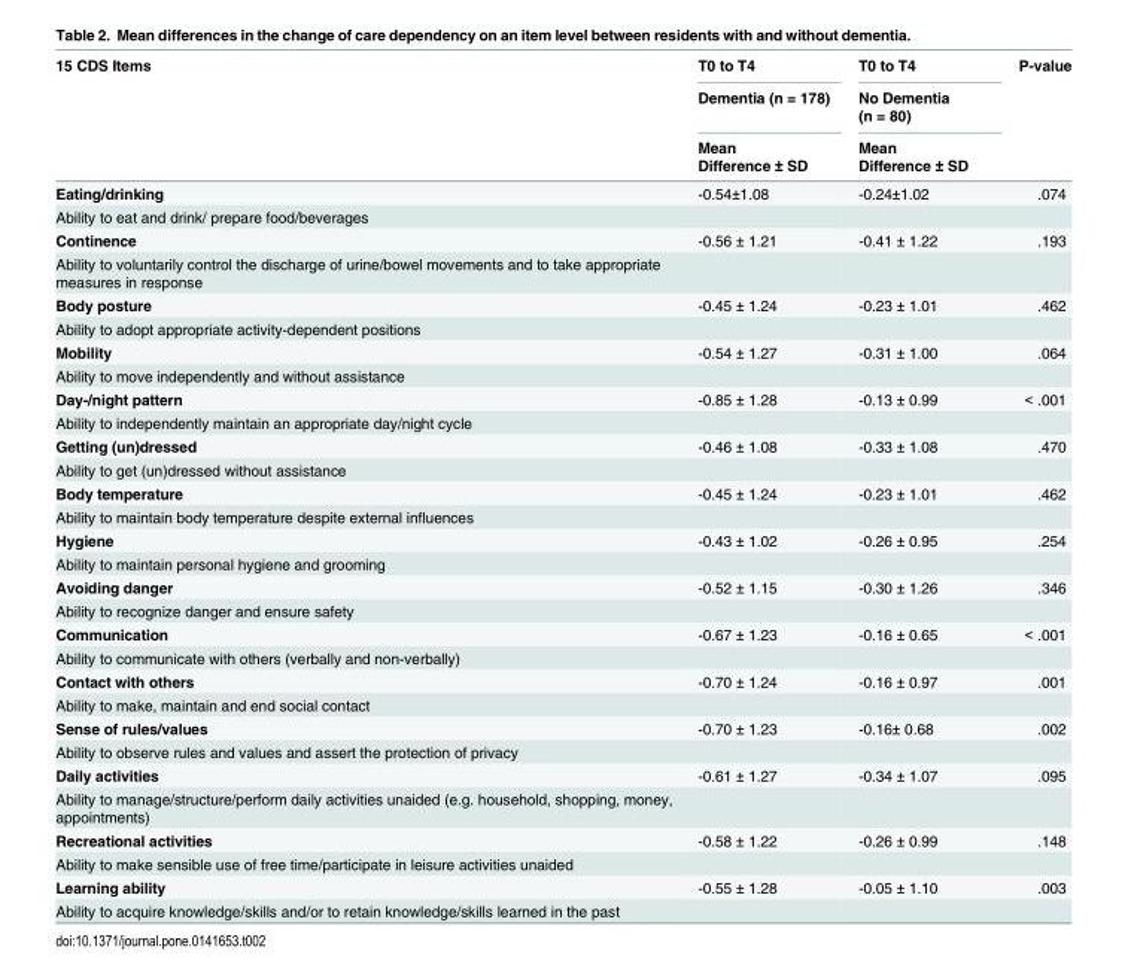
<table><thead><tr><td rowspan="3">15 CDS Items</td><td rowspan="3">T0 to T4 Dementia (n = 178) Mean Difference ± SD</td><td rowspan="3">T0 to T4 No Dementia (n = 80) Mean Difference ± SD</td><td rowspan="3">P-value</td></tr><tr></tr><tr></tr></thead><tbody><tr><td>Eating/drinking</td><td>-0.54±1.08</td><td>-0.24±1.02</td><td>.074</td></tr><tr><td colspan="4">Ability to eat and drink/ prepare food/beverages</td></tr><tr><td>Continence</td><td>-0.56 ± 1.21</td><td>-0.41 ± 1.22</td><td>.193</td></tr><tr><td colspan="4">Ability to voluntarily control the discharge of urine/bowel movements and to take appropriate measures in response</td></tr><tr><td>Body posture</td><td>-0.45 ± 1.24</td><td>-0.23 ± 1.01</td><td>.462</td></tr><tr><td colspan="4">Ability to adopt appropriate activity-dependent positions</td></tr><tr><td>Mobility</td><td>-0.54 ± 1.27</td><td>-0.31 ± 1.00</td><td>.064</td></tr><tr><td colspan="4">Ability to move independently and without assistance</td></tr><tr><td>Day-/night pattern</td><td>-0.85 ± 1.28</td><td>-0.13 ± 0.99</td><td>&lt; .001</td></tr><tr><td colspan="4">Ability to independently maintain an appropriate day/night cycle</td></tr><tr><td>Getting (un)dressed</td><td>-0.46 ± 1.08</td><td>-0.33 ± 1.08</td><td>.470</td></tr><tr><td colspan="4">Ability to get (un)dressed without assistance</td></tr><tr><td>Body temperature</td><td>-0.45 ± 1.24</td><td>-0.23 ± 1.01</td><td>.462</td></tr><tr><td colspan="4">Ability to maintain body temperature despite external influences</td></tr><tr><td>Hygiene</td><td>-0.43 ± 1.02</td><td>-0.26 ± 0.95</td><td>.254</td></tr><tr><td colspan="4">Ability to maintain personal hygiene and grooming</td></tr><tr><td>Avoiding danger</td><td>-0.52 ± 1.15</td><td>-0.30 ± 1.26</td><td>.346</td></tr><tr><td colspan="4">Ability to recognize danger and ensure safety</td></tr><tr><td>Communication</td><td>-0.67 ± 1.23</td><td>-0.16 ± 0.65</td><td>&lt; .001</td></tr><tr><td colspan="4">Ability to communicate with others (verbally and non-verbally)</td></tr><tr><td>Contact with others</td><td>-0.70 ± 1.24</td><td>-0.16 ± 0.97</td><td>.001</td></tr><tr><td colspan="4">Ability to make, maintain and end social contact</td></tr><tr><td>Sense of rules/values</td><td>-0.70 ± 1.23</td><td>-0.16± 0.68</td><td>.002</td></tr><tr><td colspan="4">Ability to observe rules and values and assert the protection of privacy</td></tr><tr><td>Daily activities</td><td>-0.61 ± 1.27</td><td>-0.34 ± 1.07</td><td>.095</td></tr><tr><td colspan="4">Ability to manage/structure/perform daily activities unaided (e.g. household, shopping, money, appointments)</td></tr><tr><td>Recreational activities</td><td>-0.58 ± 1.22</td><td>-0.26 ± 0.99</td><td>.148</td></tr><tr><td colspan="4">Ability to make sensible use of free time/participate in leisure activities unaided</td></tr><tr><td>Learning ability</td><td>-0.55 ± 1.28</td><td>-0.05 ± 1.10</td><td>.003</td></tr><tr><td>Ability to acquire knowledge/skills and/or to retain knowledge/skills learned in the past</td><td></td><td></td><td></td></tr></tbody></table>